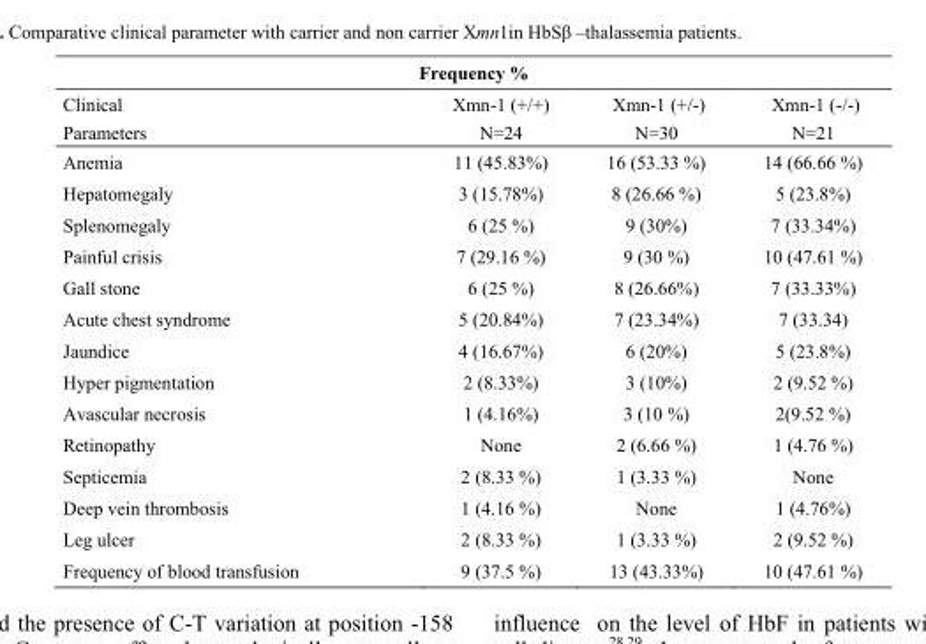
<table><thead><tr><td colspan="4">Frequency %</td></tr><tr><td>Clinical Parameters</td><td>Xmn-1 (+/+) N=24</td><td>Xmn-1 (+/-) N=30</td><td>Xmn-1 (-/-) N=21</td></tr></thead><tbody><tr><td>Anemia</td><td>11 (45.83%)</td><td>16 (53.33 %)</td><td>14 (66.66 %)</td></tr><tr><td>Hepatomegaly</td><td>3 (15.78%)</td><td>8 (26.66 %)</td><td>5 (23.8%)</td></tr><tr><td>Splenomegaly</td><td>6 (25 %)</td><td>9 (30%)</td><td>7 (33.34%)</td></tr><tr><td>Painful crisis</td><td>7 (29.16 %)</td><td>9 (30 %)</td><td>10 (47.61 %)</td></tr><tr><td>Gall stone</td><td>6 (25 %)</td><td>8 (26.66%)</td><td>7 (33.33%)</td></tr><tr><td>Acute chest syndrome</td><td>5 (20.84%)</td><td>7 (23.34%)</td><td>7 (33.34)</td></tr><tr><td>Jaundice</td><td>4 (16.67%)</td><td>6 (20%)</td><td>5 (23.8%)</td></tr><tr><td>Hyper pigmentation</td><td>2 (8.33%)</td><td>3 (10%)</td><td>2 (9.52 %)</td></tr><tr><td>Avascular necrosis</td><td>1 (4.16%)</td><td>3 (10 %)</td><td>2(9.52 %)</td></tr><tr><td>Retinopathy</td><td>None</td><td>2 (6.66 %)</td><td>1 (4.76 %)</td></tr><tr><td>Septicemia</td><td>2 (8.33 %)</td><td>1 (3.33 %)</td><td>None</td></tr><tr><td>Deep vein thrombosis</td><td>1 (4.16 %)</td><td>None</td><td>1 (4.76%)</td></tr><tr><td>Leg ulcer</td><td>2 (8.33 %)</td><td>1 (3.33 %)</td><td>2 (9.52 %)</td></tr><tr><td>Frequency of blood transfusion</td><td>9 (37.5 %)</td><td>13 (43.33%)</td><td>10 (47.61 %)</td></tr></tbody></table>